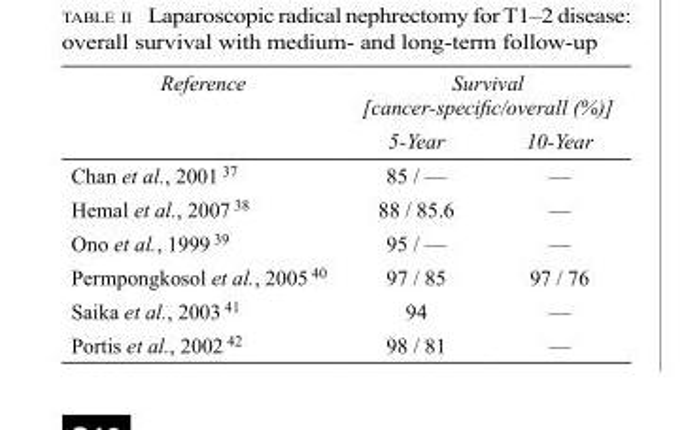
<table><thead><tr><td rowspan="2">Reference</td><td colspan="2">Survival [cancer-specific/overall (%)]</td></tr><tr><td>5-Year</td><td>10-Year</td></tr></thead><tbody><tr><td>Chan et al., 2001 <sup>37</sup></td><td>85 / —</td><td>—</td></tr><tr><td>Hemal et al., 2007 <sup>38</sup></td><td>88 / 85.6</td><td>—</td></tr><tr><td>Ono et al., 1999 <sup>39</sup></td><td>95 / —</td><td>—</td></tr><tr><td>Permpongkosol et al., 2005 <sup>40</sup></td><td>97 / 85</td><td>97 / 76</td></tr><tr><td>Saika et al., 2003 <sup>41</sup></td><td>94</td><td>—</td></tr><tr><td>Portis et al., 2002 <sup>42</sup></td><td>98 / 81</td><td>—</td></tr></tbody></table>